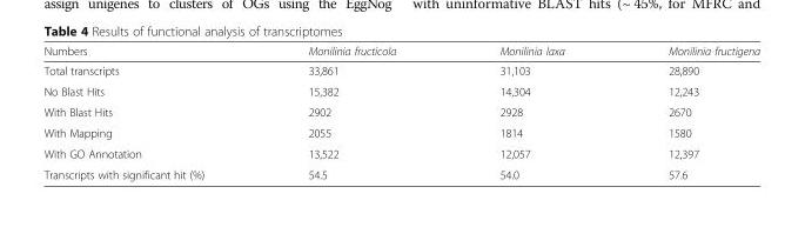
<table><thead><tr><td>Numbers</td><td>Monilinia fructicola</td><td>Monilinia laxa</td><td>Monilinia fructigena</td></tr></thead><tbody><tr><td>Total transcripts</td><td>33,861</td><td>31,103</td><td>28,890</td></tr><tr><td>No Blast Hits</td><td>15,382</td><td>14,304</td><td>12,243</td></tr><tr><td>With Blast Hits</td><td>2902</td><td>2928</td><td>2670</td></tr><tr><td>With Mapping</td><td>2055</td><td>1814</td><td>1580</td></tr><tr><td>With GO Annotation</td><td>13,522</td><td>12,057</td><td>12,397</td></tr><tr><td>Transcripts with significant hit (%)</td><td>54.5</td><td>54.0</td><td>57.6</td></tr></tbody></table>